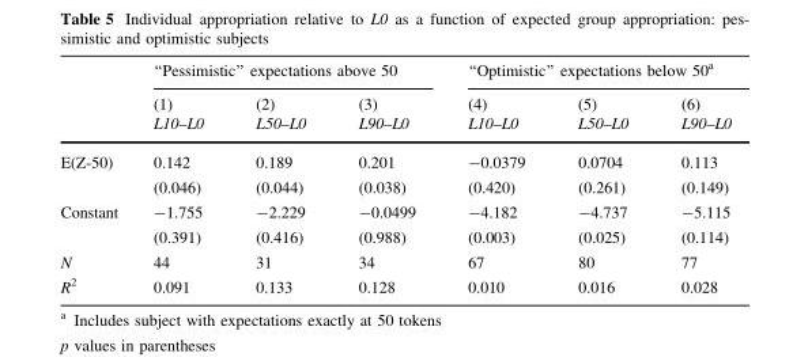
<table><thead><tr><td rowspan="3"></td><td colspan="3">‘‘Pessimistic’’ expectations above 50</td><td colspan="3">‘‘Optimistic’’ expectations below 50a</td></tr><tr><td rowspan="2">(1) L10–L0</td><td rowspan="2">(2) L50–L0</td><td rowspan="2">(3) L90–L0</td><td rowspan="2">(4) L10–L0</td><td rowspan="2">(5) L50–L0</td><td rowspan="2">(6) L90–L0</td></tr><tr></tr></thead><tbody><tr><td>E(Z-50)</td><td>0.142 (0.046)</td><td>0.189 (0.044)</td><td>0.201 (0.038)</td><td>-0.0379 (0.420)</td><td>0.0704 (0.261)</td><td>0.113 (0.149)</td></tr><tr><td>Constant</td><td>-1.755 (0.391)</td><td>-2.229 (0.416)</td><td>-0.0499 (0.988)</td><td>-4.182 (0.003)</td><td>-4.737 (0.025)</td><td>-5.115 (0.114)</td></tr><tr><td>N</td><td>44</td><td>31</td><td>34</td><td>67</td><td>80</td><td>77</td></tr><tr><td>R<sup>2</sup></td><td>0.091</td><td>0.133</td><td>0.128</td><td>0.010</td><td>0.016</td><td>0.028</td></tr></tbody></table>